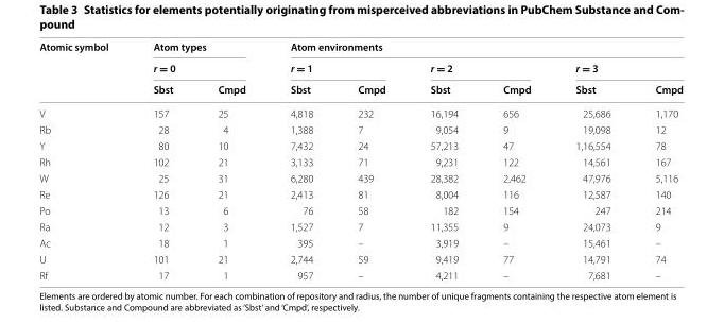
<table><thead><tr><td rowspan="3">Atomic symbol</td><td rowspan="2" colspan="2">Atom types r = 0</td><td colspan="6">Atom environments</td></tr><tr><td colspan="2">r = 1</td><td colspan="2">r = 2</td><td colspan="2">r = 3</td></tr><tr><td>Sbst</td><td>Cmpd</td><td>Sbst</td><td>Cmpd</td><td>Sbst</td><td>Cmpd</td><td>Sbst</td><td>Cmpd</td></tr></thead><tbody><tr><td>V</td><td>157</td><td>25</td><td>4,818</td><td>232</td><td>16,194</td><td>656</td><td>25,686</td><td>1,170</td></tr><tr><td>Rb</td><td>28</td><td>4</td><td>1,388</td><td>7</td><td>9,054</td><td>9</td><td>19,098</td><td>12</td></tr><tr><td>Y</td><td>80</td><td>10</td><td>7,432</td><td>24</td><td>57,213</td><td>47</td><td>1,16,554</td><td>78</td></tr><tr><td>Rh</td><td>102</td><td>21</td><td>3,133</td><td>71</td><td>9,231</td><td>122</td><td>14,561</td><td>167</td></tr><tr><td>W</td><td>25</td><td>31</td><td>6,280</td><td>439</td><td>28,382</td><td>2,462</td><td>47,976</td><td>5,116</td></tr><tr><td>Re</td><td>126</td><td>21</td><td>2,413</td><td>81</td><td>8,004</td><td>116</td><td>12,587</td><td>140</td></tr><tr><td>Po</td><td>13</td><td>6</td><td>76</td><td>58</td><td>182</td><td>154</td><td>247</td><td>214</td></tr><tr><td>Ra</td><td>12</td><td>3</td><td>1,527</td><td>7</td><td>11,355</td><td>9</td><td>24,073</td><td>9</td></tr><tr><td>Ac</td><td>18</td><td>1</td><td>395</td><td>–</td><td>3,919</td><td>–</td><td>15,461</td><td>–</td></tr><tr><td>U</td><td>101</td><td>21</td><td>2,744</td><td>59</td><td>9,419</td><td>77</td><td>14,791</td><td>74</td></tr><tr><td>Rf</td><td>17</td><td>1</td><td>957</td><td>–</td><td>4,211</td><td>–</td><td>7,681</td><td>–</td></tr></tbody></table>